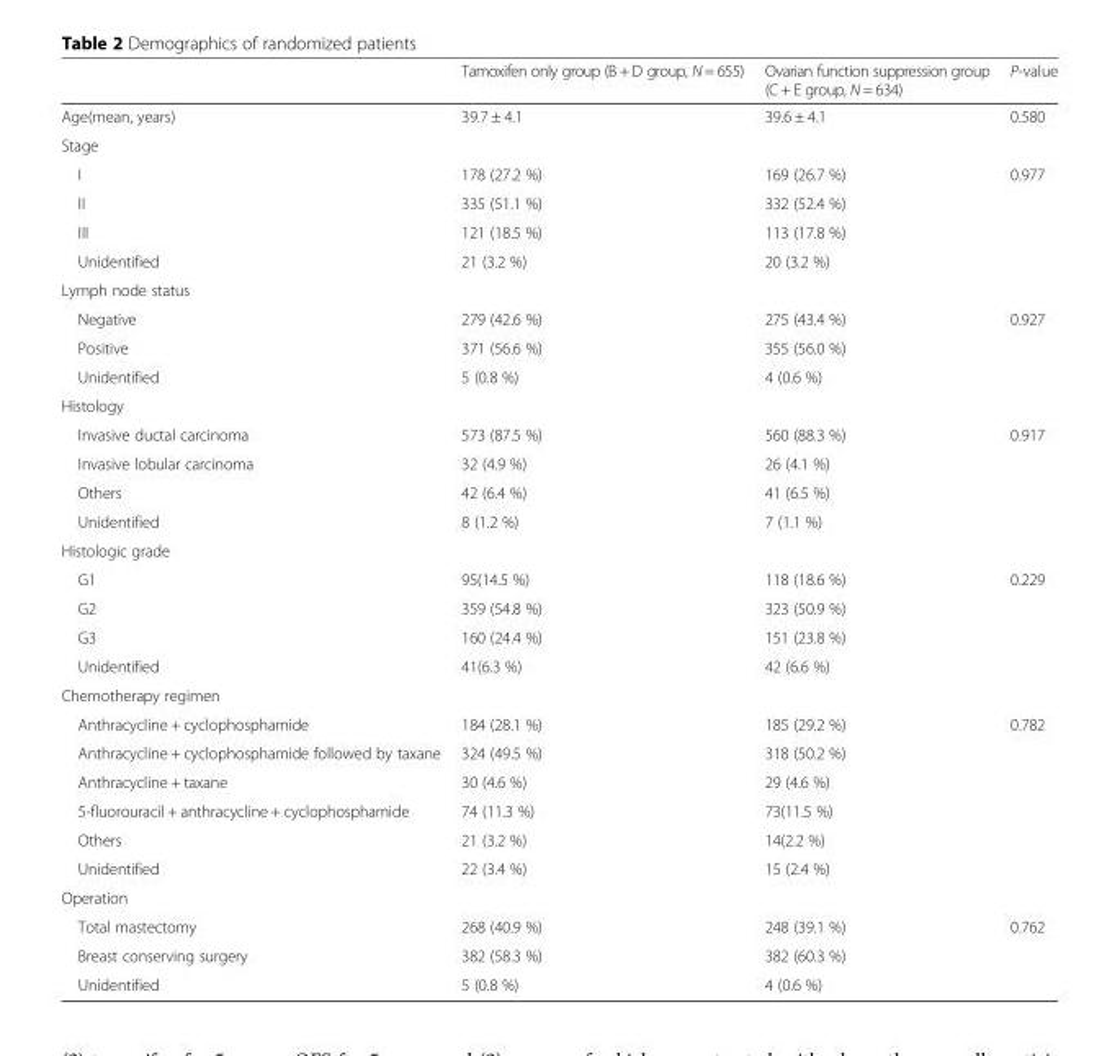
<table><thead><tr><td></td><td>Tamoxifen only group (B + D group, N = 655)</td><td>Ovarian function suppression group (C + E group, N = 634)</td><td>P-value</td></tr></thead><tbody><tr><td>Age(mean, years)</td><td>39.7 ± 4.1</td><td>39.6 ± 4.1</td><td>0.580</td></tr><tr><td colspan="4">Stage</td></tr><tr><td>I</td><td>178 (27.2 %)</td><td>169 (26.7 %)</td><td>0.977</td></tr><tr><td>II</td><td>335 (51.1 %)</td><td>332 (52.4 %)</td><td></td></tr><tr><td>III</td><td>121 (18.5 %)</td><td>113 (17.8 %)</td><td></td></tr><tr><td>Unidentified</td><td>21 (3.2 %)</td><td>20 (3.2 %)</td><td></td></tr><tr><td colspan="4">Lymph node status</td></tr><tr><td>Negative</td><td>279 (42.6 %)</td><td>275 (43.4 %)</td><td>0.927</td></tr><tr><td>Positive</td><td>371 (56.6 %)</td><td>355 (56.0 %)</td><td></td></tr><tr><td>Unidentified</td><td>5 (0.8 %)</td><td>4 (0.6 %)</td><td></td></tr><tr><td colspan="4">Histology</td></tr><tr><td>Invasive ductal carcinoma</td><td>573 (87.5 %)</td><td>560 (88.3 %)</td><td>0.917</td></tr><tr><td>Invasive lobular carcinoma</td><td>32 (4.9 %)</td><td>26 (4.1 %)</td><td></td></tr><tr><td>Others</td><td>42 (6.4 %)</td><td>41 (6.5 %)</td><td></td></tr><tr><td>Unidentified</td><td>8 (1.2 %)</td><td>7 (1.1 %)</td><td></td></tr><tr><td colspan="4">Histologic grade</td></tr><tr><td>G1</td><td>95(14.5 %)</td><td>118 (18.6 %)</td><td>0.229</td></tr><tr><td>G2</td><td>359 (54.8 %)</td><td>323 (50.9 %)</td><td></td></tr><tr><td>G3</td><td>160 (24.4 %)</td><td>151 (23.8 %)</td><td></td></tr><tr><td>Unidentified</td><td>41(6.3 %)</td><td>42 (6.6 %)</td><td></td></tr><tr><td colspan="4">Chemotherapy regimen</td></tr><tr><td>Anthracycline + cyclophosphamide</td><td>184 (28.1 %)</td><td>185 (29.2 %)</td><td>0.782</td></tr><tr><td>Anthracycline + cyclophosphamide followed by taxane</td><td>324 (49.5 %)</td><td>318 (50.2 %)</td><td></td></tr><tr><td>Anthracycline + taxane</td><td>30 (4.6 %)</td><td>29 (4.6 %)</td><td></td></tr><tr><td>5-fluorouracil + anthracycline + cyclophosphamide</td><td>74 (11.3 %)</td><td>73(11.5 %)</td><td></td></tr><tr><td>Others</td><td>21 (3.2 %)</td><td>14(2.2 %)</td><td></td></tr><tr><td>Unidentified</td><td>22 (3.4 %)</td><td>15 (2.4 %)</td><td></td></tr><tr><td colspan="4">Operation</td></tr><tr><td>Total mastectomy</td><td>268 (40.9 %)</td><td>248 (39.1 %)</td><td>0.762</td></tr><tr><td>Breast conserving surgery</td><td>382 (58.3 %)</td><td>382 (60.3 %)</td><td></td></tr><tr><td>Unidentified</td><td>5 (0.8 %)</td><td>4 (0.6 %)</td><td></td></tr></tbody></table>